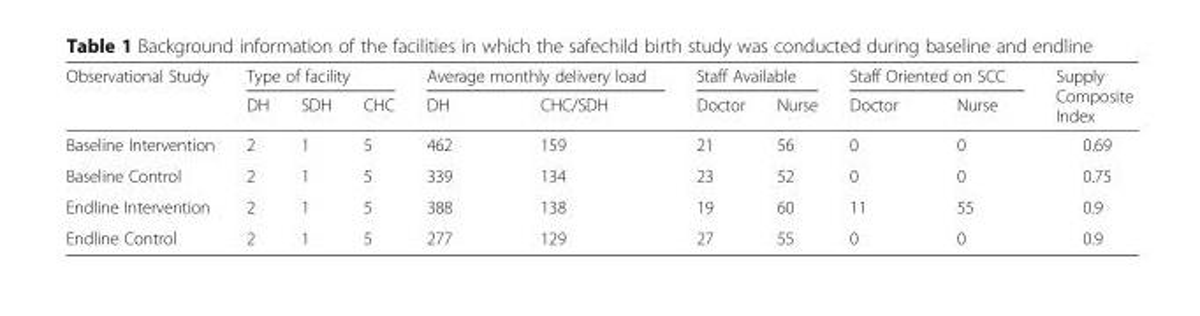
<table><thead><tr><td rowspan="2">Observational Study</td><td colspan="3">Type of facility</td><td colspan="2">Average monthly delivery load</td><td colspan="2">Staff Available</td><td colspan="2">Staff Oriented on SCC</td><td rowspan="2">Supply Composite Index</td></tr><tr><td>DH</td><td>SDH</td><td>CHC</td><td>DH</td><td>CHC/SDH</td><td>Doctor</td><td>Nurse</td><td>Doctor</td><td>Nurse</td></tr></thead><tbody><tr><td>Baseline Intervention</td><td>2</td><td>1</td><td>5</td><td>462</td><td>159</td><td>21</td><td>56</td><td>0</td><td>0</td><td>0.69</td></tr><tr><td>Baseline Control</td><td>2</td><td>1</td><td>5</td><td>339</td><td>134</td><td>23</td><td>52</td><td>0</td><td>0</td><td>0.75</td></tr><tr><td>Endline Intervention</td><td>2</td><td>1</td><td>5</td><td>388</td><td>138</td><td>19</td><td>60</td><td>11</td><td>55</td><td>0.9</td></tr><tr><td>Endline Control</td><td>2</td><td>1</td><td>5</td><td>277</td><td>129</td><td>27</td><td>55</td><td>0</td><td>0</td><td>0.9</td></tr></tbody></table>